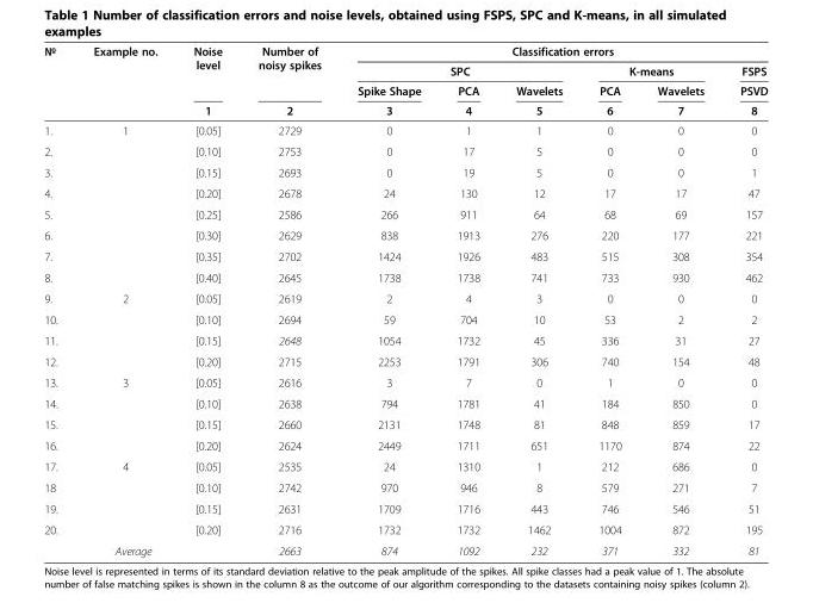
<table><thead><tr><td rowspan="4">№</td><td rowspan="4">Example no.</td><td rowspan="4">Noise level 1</td><td rowspan="4">Number of noisy spikes 2</td><td colspan="6">Classification errors</td></tr><tr><td colspan="3">SPC</td><td colspan="2">K-means</td><td rowspan="3">FSPS PSVD 8</td></tr><tr><td rowspan="2">Spike Shape 3</td><td rowspan="2">PCA 4</td><td rowspan="2">Wavelets 5</td><td rowspan="2">PCA 6</td><td rowspan="2">Wavelets 7</td></tr><tr></tr></thead><tbody><tr><td>1.</td><td rowspan="8">1</td><td>[0.05]</td><td>2729</td><td>0</td><td>1</td><td>1</td><td>0</td><td>0</td><td>0</td></tr><tr><td>2.</td><td>[0.10]</td><td>2753</td><td>0</td><td>17</td><td>5</td><td>0</td><td>0</td><td>0</td></tr><tr><td>3.</td><td>[0.15]</td><td>2693</td><td>0</td><td>19</td><td>5</td><td>0</td><td>0</td><td>1</td></tr><tr><td>4.</td><td>[0.20]</td><td>2678</td><td>24</td><td>130</td><td>12</td><td>17</td><td>17</td><td>47</td></tr><tr><td>5.</td><td>[0.25]</td><td>2586</td><td>266</td><td>911</td><td>64</td><td>68</td><td>69</td><td>157</td></tr><tr><td>6.</td><td>[0.30]</td><td>2629</td><td>838</td><td>1913</td><td>276</td><td>220</td><td>177</td><td>221</td></tr><tr><td>7.</td><td>[0.35]</td><td>2702</td><td>1424</td><td>1926</td><td>483</td><td>515</td><td>308</td><td>354</td></tr><tr><td>8.</td><td>[0.40]</td><td>2645</td><td>1738</td><td>1738</td><td>741</td><td>733</td><td>930</td><td>462</td></tr><tr><td>9.</td><td rowspan="4">2</td><td>[0.05]</td><td>2619</td><td>2</td><td>4</td><td>3</td><td>0</td><td>0</td><td>0</td></tr><tr><td>10.</td><td>[0.10]</td><td>2694</td><td>59</td><td>704</td><td>10</td><td>53</td><td>2</td><td>2</td></tr><tr><td>11.</td><td>[0.15]</td><td>2648</td><td>1054</td><td>1732</td><td>45</td><td>336</td><td>31</td><td>27</td></tr><tr><td>12.</td><td>[0.20]</td><td>2715</td><td>2253</td><td>1791</td><td>306</td><td>740</td><td>154</td><td>48</td></tr><tr><td>13.</td><td rowspan="4">3</td><td>[0.05]</td><td>2616</td><td>3</td><td>7</td><td>0</td><td>1</td><td>0</td><td>0</td></tr><tr><td>14.</td><td>[0.10]</td><td>2638</td><td>794</td><td>1781</td><td>41</td><td>184</td><td>850</td><td>0</td></tr><tr><td>15.</td><td>[0.15]</td><td>2660</td><td>2131</td><td>1748</td><td>81</td><td>848</td><td>859</td><td>17</td></tr><tr><td>16.</td><td>[0.20]</td><td>2624</td><td>2449</td><td>1711</td><td>651</td><td>1170</td><td>874</td><td>22</td></tr><tr><td>17.</td><td rowspan="4">4</td><td>[0.05]</td><td>2535</td><td>24</td><td>1310</td><td>1</td><td>212</td><td>686</td><td>0</td></tr><tr><td>18</td><td>[0.10]</td><td>2742</td><td>970</td><td>946</td><td>8</td><td>579</td><td>271</td><td>7</td></tr><tr><td>19.</td><td>[0.15]</td><td>2631</td><td>1709</td><td>1716</td><td>443</td><td>746</td><td>546</td><td>51</td></tr><tr><td>20.</td><td>[0.20]</td><td>2716</td><td>1732</td><td>1732</td><td>1462</td><td>1004</td><td>872</td><td>195</td></tr><tr><td colspan="3">Average</td><td>2663</td><td>874</td><td>1092</td><td>232</td><td>371</td><td>332</td><td>81</td></tr></tbody></table>